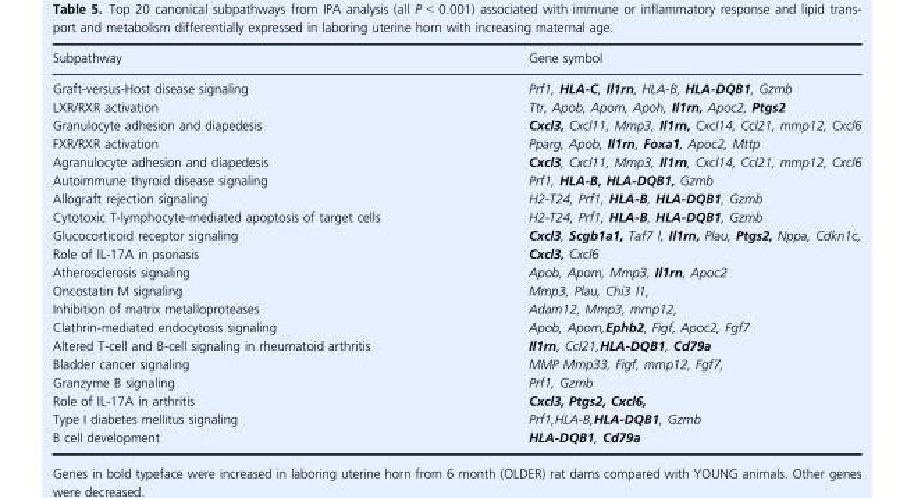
<table><thead><tr><td>Subpathway</td><td>Gene symbol</td></tr></thead><tbody><tr><td>Graft-versus-Host disease signaling</td><td>Prf1, HLA-C, Il1rn, HLA-B, HLA-DQB1, Gzmb</td></tr><tr><td>LXR/RXR activation</td><td>Ttr, Apob, Apom, Apoh, Il1rn, Apoc2, Ptgs2</td></tr><tr><td>Granulocyte adhesion and diapedesis</td><td>Cxcl3, Cxcl11, Mmp3, Il1rn, Cxcl14, Ccl21, mmp12, Cxcl6</td></tr><tr><td>FXR/RXR activation</td><td>Pparg, Apob, Il1rn, Foxa1, Apoc2, Mttp</td></tr><tr><td>Agranulocyte adhesion and diapedesis</td><td>Cxcl3, Cxcl11, Mmp3, Il1rn, Cxcl14, Ccl21, mmp12, Cxcl6</td></tr><tr><td>Autoimmune thyroid disease signaling</td><td>Prf1, HLA-B, HLA-DQB1, Gzmb</td></tr><tr><td>Allograft rejection signaling</td><td>H2-T24, Prf1, HLA-B, HLA-DQB1, Gzmb</td></tr><tr><td>Cytotoxic T-lymphocyte-mediated apoptosis of target cells</td><td>H2-T24, Prf1, HLA-B, HLA-DQB1, Gzmb</td></tr><tr><td>Glucocorticoid receptor signaling</td><td>Cxcl3, Scgb1a1, Taf7 l, Il1rn, Plau, Ptgs2, Nppa, Cdkn1c,</td></tr><tr><td>Role of IL-17A in psoriasis</td><td>Cxcl3, Cxcl6</td></tr><tr><td>Atherosclerosis signaling</td><td>Apob, Apom, Mmp3, Il1rn, Apoc2</td></tr><tr><td>Oncostatin M signaling</td><td>Mmp3, Plau, Chi3 l1,</td></tr><tr><td>Inhibition of matrix metalloproteases</td><td>Adam12, Mmp3, mmp12,</td></tr><tr><td>Clathrin-mediated endocytosis signaling</td><td>Apob, Apom,Ephb2, Figf, Apoc2, Fgf7</td></tr><tr><td>Altered T-cell and B-cell signaling in rheumatoid arthritis</td><td>Il1rn, Ccl21,HLA-DQB1, Cd79a</td></tr><tr><td>Bladder cancer signaling</td><td>MMP Mmp33, Figf, mmp12, Fgf7,</td></tr><tr><td>Granzyme B signaling</td><td>Prf1, Gzmb</td></tr><tr><td>Role of IL-17A in arthritis</td><td>Cxcl3, Ptgs2, Cxcl6,</td></tr><tr><td>Type I diabetes mellitus signaling</td><td>Prf1,HLA-B,HLA-DQB1, Gzmb</td></tr><tr><td>B cell development</td><td>HLA-DQB1, Cd79a</td></tr></tbody></table>